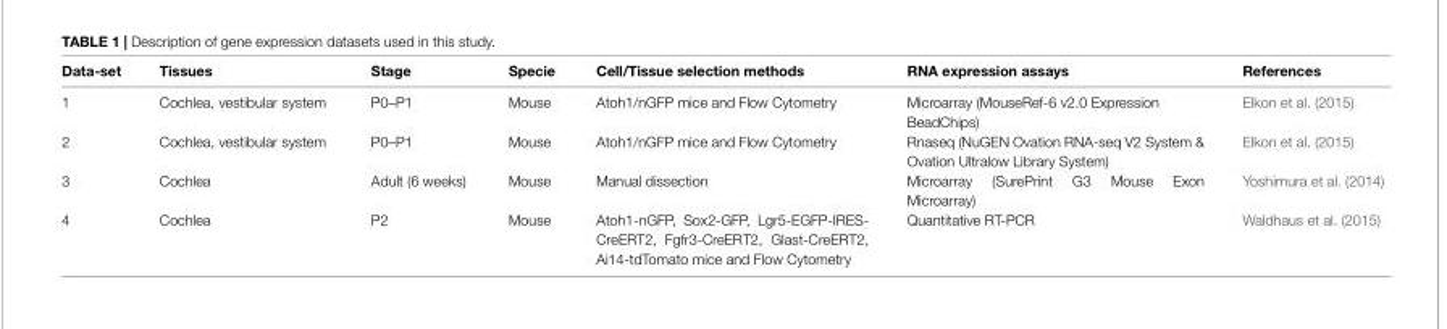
<table><thead><tr><td>Data-set</td><td>Tissues</td><td>Stage</td><td>Specie</td><td>Cell/Tissue selection methods</td><td>RNA expression assays</td><td>References</td></tr></thead><tbody><tr><td>1</td><td>Cochlea, vestibular system</td><td>P0–P1</td><td>Mouse</td><td>Atoh1/nGFP mice and Flow Cytometry</td><td>Microarray (MouseRef-6 v2.0 Expression BeadChips)</td><td>Elkon et al. (2015)</td></tr><tr><td>2</td><td>Cochlea, vestibular system</td><td>P0–P1</td><td>Mouse</td><td>Atoh1/nGFP mice and Flow Cytometry</td><td>Rnaseq (NuGEN Ovation RNA-seq V2 System &amp; Ovation Ultralow Library System)</td><td>Elkon et al. (2015)</td></tr><tr><td>3</td><td>Cochlea</td><td>Adult (6 weeks)</td><td>Mouse</td><td>Manual dissection</td><td>Microarray (SurePrint G3 Mouse Exon Microarray)</td><td>Yoshimura et al. (2014)</td></tr><tr><td>4</td><td>Cochlea</td><td>P2</td><td>Mouse</td><td>Atoh1-nGFP, Sox2-GFP, Lgr5-EGFP-IRES- CreERT2, Fgfr3-CreERT2, Glast-CreERT2, Ai14-tdTomato mice and Flow Cytometry</td><td>Quantitative RT-PCR</td><td>Waldhaus et al. (2015)</td></tr></tbody></table>